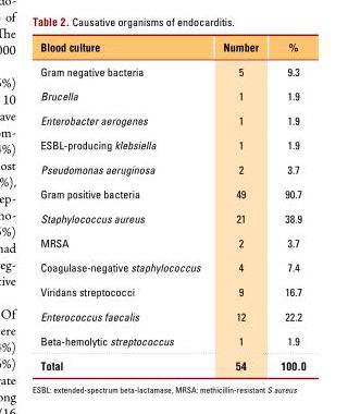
<table><thead><tr><td>Blood culture</td><td>Number</td><td>%</td></tr></thead><tbody><tr><td>Gram negative bacteria</td><td>5</td><td>9.3</td></tr><tr><td>Brucella</td><td>1</td><td>1.9</td></tr><tr><td>Enterobacter aerogenes</td><td>1</td><td>1.9</td></tr><tr><td>ESBL-producing klebsiella</td><td>1</td><td>1.9</td></tr><tr><td>Pseudomonas aeruginosa</td><td>2</td><td>3.7</td></tr><tr><td>Gram positive bacteria</td><td>49</td><td>90.7</td></tr><tr><td>Staphylococcus aureus</td><td>21</td><td>38.9</td></tr><tr><td>MRSA</td><td>2</td><td>3.7</td></tr><tr><td>Coagulase-negative staphylococcus</td><td>4</td><td>7.4</td></tr><tr><td>Viridans streptococci</td><td>9</td><td>16.7</td></tr><tr><td>Enterococcus faecalis</td><td>12</td><td>22.2</td></tr><tr><td>Beta-hemolytic streptococcus</td><td>1</td><td>1.9</td></tr><tr><td>Total</td><td>54</td><td>100.0</td></tr></tbody></table>